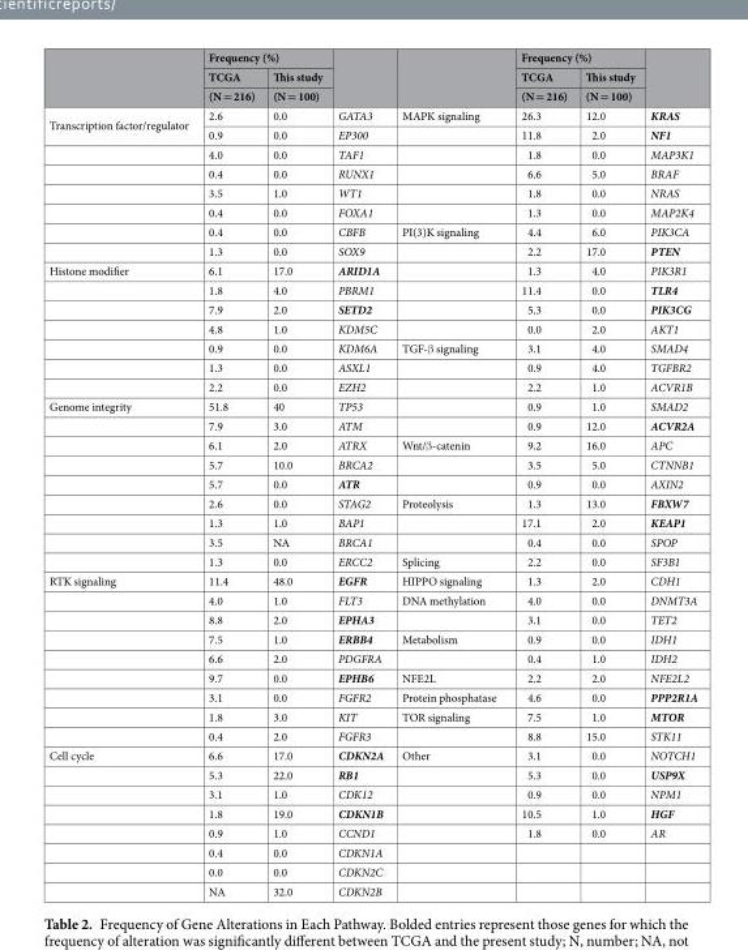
<table><thead><tr><td rowspan="3"></td><td colspan="2">Frequency (%)</td><td rowspan="3"></td><td rowspan="3"></td><td colspan="2">Frequency (%)</td><td rowspan="3"></td></tr><tr><td rowspan="2">TCGA (N = 216)</td><td rowspan="2">This study (N = 100)</td><td rowspan="2">TCGA (N = 216)</td><td rowspan="2">This study (N = 100)</td></tr><tr></tr></thead><tbody><tr><td rowspan="8">Transcription factor/regulator</td><td>2.6</td><td>0.0</td><td>GATA3</td><td>MAPK signaling</td><td>26.3</td><td>12.0</td><td>KRAS</td></tr><tr><td>0.9</td><td>0.0</td><td>EP300</td><td></td><td>11.8</td><td>2.0</td><td>NF1</td></tr><tr><td>4.0</td><td>0.0</td><td>TAF1</td><td></td><td>1.8</td><td>0.0</td><td>MAP3K1</td></tr><tr><td>0.4</td><td>0.0</td><td>RUNX1</td><td></td><td>6.6</td><td>5.0</td><td>BRAF</td></tr><tr><td>3.5</td><td>1.0</td><td>WT1</td><td></td><td>1.8</td><td>0.0</td><td>NRAS</td></tr><tr><td>0.4</td><td>0.0</td><td>FOXA1</td><td></td><td>1.3</td><td>0.0</td><td>MAP2K4</td></tr><tr><td>0.4</td><td>0.0</td><td>CBFB</td><td>PI(3)K signaling</td><td>4.4</td><td>6.0</td><td>PIK3CA</td></tr><tr><td>1.3</td><td>0.0</td><td>SOX9</td><td></td><td>2.2</td><td>17.0</td><td>PTEN</td></tr><tr><td rowspan="7">Histone modifier</td><td>6.1</td><td>17.0</td><td>ARID1A</td><td></td><td>1.3</td><td>4.0</td><td>PIK3R1</td></tr><tr><td>1.8</td><td>4.0</td><td>PBRM1</td><td></td><td>11.4</td><td>0.0</td><td>TLR4</td></tr><tr><td>7.9</td><td>2.0</td><td>SETD2</td><td></td><td>5.3</td><td>0.0</td><td>PIK3CG</td></tr><tr><td>4.8</td><td>1.0</td><td>KDM5C</td><td></td><td>0.0</td><td>2.0</td><td>AKT1</td></tr><tr><td>0.9</td><td>0.0</td><td>KDM6A</td><td>TGF-β signaling</td><td>3.1</td><td>4.0</td><td>SMAD4</td></tr><tr><td>1.3</td><td>0.0</td><td>ASXL1</td><td></td><td>0.9</td><td>4.0</td><td>TGFBR2</td></tr><tr><td>2.2</td><td>0.0</td><td>EZH2</td><td></td><td>2.2</td><td>1.0</td><td>ACVR1B</td></tr><tr><td rowspan="9">Genome integrity</td><td>51.8</td><td>40</td><td>TP53</td><td></td><td>0.9</td><td>1.0</td><td>SMAD2</td></tr><tr><td>7.9</td><td>3.0</td><td>ATM</td><td></td><td>0.9</td><td>12.0</td><td>ACVR2A</td></tr><tr><td>6.1</td><td>2.0</td><td>ATRX</td><td>Wnt/β-catenin</td><td>9.2</td><td>16.0</td><td>APC</td></tr><tr><td>5.7</td><td>10.0</td><td>BRCA2</td><td></td><td>3.5</td><td>5.0</td><td>CTNNB1</td></tr><tr><td>5.7</td><td>0.0</td><td>ATR</td><td></td><td>0.9</td><td>0.0</td><td>AXIN2</td></tr><tr><td>2.6</td><td>0.0</td><td>STAG2</td><td>Proteolysis</td><td>1.3</td><td>13.0</td><td>FBXW7</td></tr><tr><td>1.3</td><td>1.0</td><td>BAP1</td><td></td><td>17.1</td><td>2.0</td><td>KEAP1</td></tr><tr><td>3.5</td><td>NA</td><td>BRCA1</td><td></td><td>0.4</td><td>0.0</td><td>SPOP</td></tr><tr><td>1.3</td><td>0.0</td><td>ERCC2</td><td>Splicing</td><td>2.2</td><td>0.0</td><td>SF3B1</td></tr><tr><td rowspan="9">RTK signaling</td><td>11.4</td><td>48.0</td><td>EGFR</td><td>HIPPO signaling</td><td>1.3</td><td>2.0</td><td>CDH1</td></tr><tr><td>4.0</td><td>1.0</td><td>FLT3</td><td>DNA methylation</td><td>4.0</td><td>0.0</td><td>DNMT3A</td></tr><tr><td>8.8</td><td>2.0</td><td>EPHA3</td><td></td><td>3.1</td><td>0.0</td><td>TET2</td></tr><tr><td>7.5</td><td>1.0</td><td>ERBB4</td><td>Metabolism</td><td>0.9</td><td>0.0</td><td>IDH1</td></tr><tr><td>6.6</td><td>2.0</td><td>PDGFRA</td><td></td><td>0.4</td><td>1.0</td><td>IDH2</td></tr><tr><td>9.7</td><td>0.0</td><td>EPHB6</td><td>NFE2L</td><td>2.2</td><td>2.0</td><td>NFE2L2</td></tr><tr><td>3.1</td><td>0.0</td><td>FGFR2</td><td>Protein phosphatase</td><td>4.6</td><td>0.0</td><td>PPP2R1A</td></tr><tr><td>1.8</td><td>3.0</td><td>KIT</td><td>TOR signaling</td><td>7.5</td><td>1.0</td><td>MTOR</td></tr><tr><td>0.4</td><td>2.0</td><td>FGFR3</td><td></td><td>8.8</td><td>15.0</td><td>STK11</td></tr><tr><td rowspan="8">Cell cycle</td><td>6.6</td><td>17.0</td><td>CDKN2A</td><td>Other</td><td>3.1</td><td>0.0</td><td>NOTCH1</td></tr><tr><td>5.3</td><td>22.0</td><td>RB1</td><td></td><td>5.3</td><td>0.0</td><td>USP9X</td></tr><tr><td>3.1</td><td>1.0</td><td>CDK12</td><td></td><td>0.9</td><td>0.0</td><td>NPM1</td></tr><tr><td>1.8</td><td>19.0</td><td>CDKN1B</td><td></td><td>10.5</td><td>1.0</td><td>HGF</td></tr><tr><td>0.9</td><td>1.0</td><td>CCND1</td><td></td><td>1.8</td><td>0.0</td><td>AR</td></tr><tr><td>0.4</td><td>0.0</td><td>CDKN1A</td><td></td><td></td><td></td><td></td></tr><tr><td>0.0</td><td>0.0</td><td>CDKN2C</td><td></td><td></td><td></td><td></td></tr><tr><td>NA</td><td>32.0</td><td>CDKN2B</td><td></td><td></td><td></td><td></td></tr></tbody></table>